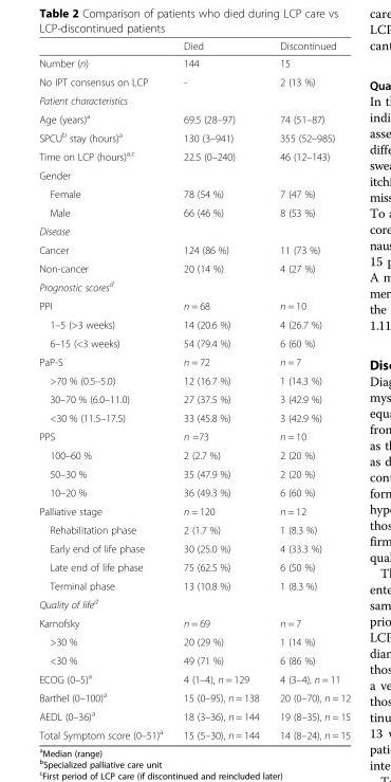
<table><thead><tr><td></td><td>Died</td><td>Discontinued</td></tr></thead><tbody><tr><td>Number (n)</td><td>144</td><td>15</td></tr><tr><td>No IPT consensus on LCP</td><td>-</td><td>2 (13 %)</td></tr><tr><td colspan="3">Patient characteristics</td></tr><tr><td>Age (years)<sup>a</sup></td><td>69.5 (28–97)</td><td>74 (51–87)</td></tr><tr><td>SPCU<sup>b</sup> stay (hours)<sup>a</sup></td><td>130 (3–941)</td><td>355 (52–985)</td></tr><tr><td>Time on LCP (hours)<sup>a,c</sup></td><td>22.5 (0–240)</td><td>46 (12–143)</td></tr><tr><td colspan="3">Gender</td></tr><tr><td>Female</td><td>78 (54 %)</td><td>7 (47 %)</td></tr><tr><td>Male</td><td>66 (46 %)</td><td>8 (53 %)</td></tr><tr><td colspan="3">Disease</td></tr><tr><td>Cancer</td><td>124 (86 %)</td><td>11 (73 %)</td></tr><tr><td>Non-cancer</td><td>20 (14 %)</td><td>4 (27 %)</td></tr><tr><td colspan="3">Prognostic scores<sup>d</sup></td></tr><tr><td>PPI</td><td>n = 68</td><td>n = 10</td></tr><tr><td>1–5 (&gt;3 weeks)</td><td>14 (20.6 %)</td><td>4 (26.7 %)</td></tr><tr><td>6–15 (&lt;3 weeks)</td><td>54 (79.4 %)</td><td>6 (60 %)</td></tr><tr><td>PaP-S</td><td>n = 72</td><td>n = 7</td></tr><tr><td>&gt;70 % (0.5–5.0)</td><td>12 (16.7 %)</td><td>1 (14.3 %)</td></tr><tr><td>30–70 % (6.0–11.0)</td><td>27 (37.5 %)</td><td>3 (42.9 %)</td></tr><tr><td>&lt;30 % (11.5–17.5)</td><td>33 (45.8 %)</td><td>3 (42.9 %)</td></tr><tr><td>PPS</td><td>n =73</td><td>n = 10</td></tr><tr><td>100–60 %</td><td>2 (2.7 %)</td><td>2 (20 %)</td></tr><tr><td>50–30 %</td><td>35 (47.9 %)</td><td>2 (20 %)</td></tr><tr><td>10–20 %</td><td>36 (49.3 %)</td><td>6 (60 %)</td></tr><tr><td>Palliative stage</td><td>n = 120</td><td>n = 12</td></tr><tr><td>Rehabilitation phase</td><td>2 (1.7 %)</td><td>1 (8.3 %)</td></tr><tr><td>Early end of life phase</td><td>30 (25.0 %)</td><td>4 (33.3 %)</td></tr><tr><td>Late end of life phase</td><td>75 (62.5 %)</td><td>6 (50 %)</td></tr><tr><td>Terminal phase</td><td>13 (10.8 %)</td><td>1 (8.3 %)</td></tr><tr><td colspan="3">Quality of life<sup>d</sup></td></tr><tr><td>Karnofsky</td><td>n = 69</td><td>n = 7</td></tr><tr><td>&gt;30 %</td><td>20 (29 %)</td><td>1 (14 %)</td></tr><tr><td>&lt;30 %</td><td>49 (71 %)</td><td>6 (86 %)</td></tr><tr><td>ECOG (0–5)<sup>a</sup></td><td>4 (1–4), n = 129</td><td>4 (3–4), n = 11</td></tr><tr><td>Barthel (0–100)<sup>a</sup></td><td>15 (0–95), n = 138</td><td>20 (0–70), n = 12</td></tr><tr><td>AEDL (0–36)<sup>a</sup></td><td>18 (3–36), n = 144</td><td>19 (8–35), n = 15</td></tr><tr><td>Total Symptom score (0–51)<sup>a</sup></td><td>15 (5–30), n = 144</td><td>14 (8–24), n = 15</td></tr></tbody></table>